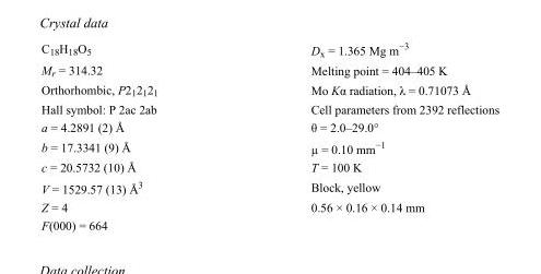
<table><tbody><tr><td>C<sub>18</sub>H<sub>18</sub>O<sub>5</sub></td><td>D<sub>x</sub> = 1.365 Mg m<sup>−3</sup></td></tr><tr><td>M<sub>r</sub> = 314.32</td><td>Melting point = 404–405 K</td></tr><tr><td>Orthorhombic, P2<sub>1</sub>2<sub>1</sub>2<sub>1</sub></td><td>Mo Kα radiation, λ = 0.71073 Å</td></tr><tr><td>Hall symbol: P 2ac 2ab</td><td>Cell parameters from 2392 reflections</td></tr><tr><td>a = 4.2891 (2) Å</td><td>θ = 2.0–29.0°</td></tr><tr><td>b = 17.3341 (9) Å</td><td>µ = 0.10 mm<sup>−1</sup></td></tr><tr><td>c = 20.5732 (10) Å</td><td>T = 100 K</td></tr><tr><td>V = 1529.57 (13) Å<sup>3</sup></td><td>Block, yellow</td></tr><tr><td>Z = 4</td><td>0.56 × 0.16 × 0.14 mm</td></tr><tr><td>F(000) = 664</td><td></td></tr></tbody></table>